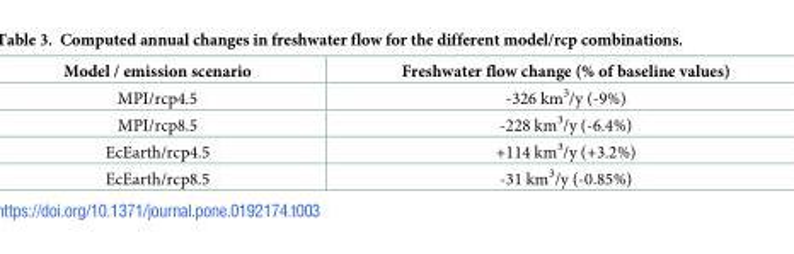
<table><thead><tr><td>Model / emission scenario</td><td>Freshwater flow change (% of baseline values)</td></tr></thead><tbody><tr><td>MPI/rcp4.5</td><td>-326 km<sup>3</sup>/y (-9%)</td></tr><tr><td>MPI/rcp8.5</td><td>-228 km<sup>3</sup>/y (-6.4%)</td></tr><tr><td>EcEarth/rcp4.5</td><td>+114 km<sup>3</sup>/y (+3.2%)</td></tr><tr><td>EcEarth/rcp8.5</td><td>-31 km<sup>3</sup>/y (-0.85%)</td></tr></tbody></table>